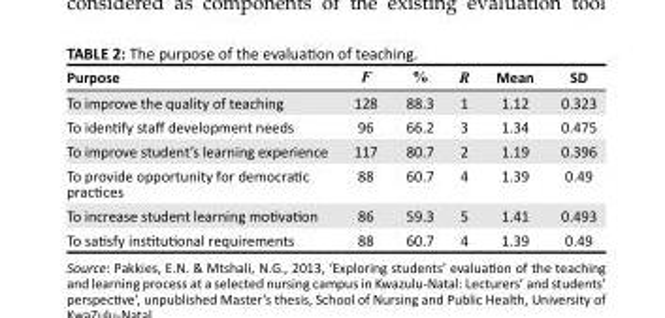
<table><thead><tr><td>Purpose</td><td>F</td><td>%</td><td>R</td><td>Mean</td><td>SD</td></tr></thead><tbody><tr><td>To improve the quality of teaching</td><td>128</td><td>88.3</td><td>1</td><td>1.12</td><td>0.323</td></tr><tr><td>To identify staff development needs</td><td>96</td><td>66.2</td><td>3</td><td>1.34</td><td>0.475</td></tr><tr><td>To improve student’s learning experience</td><td>117</td><td>80.7</td><td>2</td><td>1.19</td><td>0.396</td></tr><tr><td>To provide opportunity for democratic practices</td><td>88</td><td>60.7</td><td>4</td><td>1.39</td><td>0.49</td></tr><tr><td>To increase student learning motivation</td><td>86</td><td>59.3</td><td>5</td><td>1.41</td><td>0.493</td></tr><tr><td>To satisfy institutional requirements</td><td>88</td><td>60.7</td><td>4</td><td>1.39</td><td>0.49</td></tr></tbody></table>